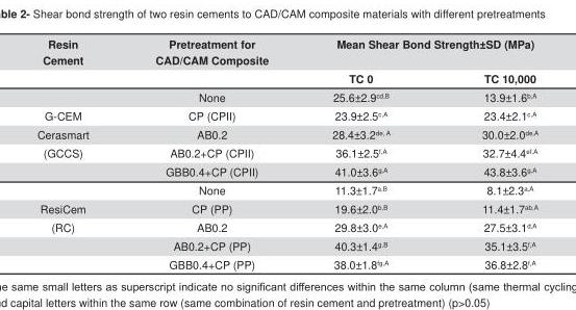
<table><thead><tr><td rowspan="2">Resin Cement</td><td rowspan="2">Pretreatment for CAD/CAM Composite</td><td colspan="2">Mean Shear Bond Strength±SD (MPa)</td></tr><tr><td>TC 0</td><td>TC 10,000</td></tr></thead><tbody><tr><td></td><td>None</td><td>25.6±2.9<sup>cd,B</sup></td><td>13.9±1.6<sup>b,A</sup></td></tr><tr><td>G-CEM</td><td>CP (CPII)</td><td>23.9±2.5<sup>c,A</sup></td><td>23.4±2.1<sup>c,A</sup></td></tr><tr><td>Cerasmart</td><td>AB0.2</td><td>28.4±3.2<sup>de, A</sup></td><td>30.0±2.0<sup>de,A</sup></td></tr><tr><td rowspan="3">(GCCS)</td><td>AB0.2+CP (CPII)</td><td>36.1±2.5<sup>f,A</sup></td><td>32.7±4.4<sup>ef,A</sup></td></tr><tr><td>GBB0.4+CP (CPII)</td><td>41.0±3.6<sup>g,A</sup></td><td>43.8±3.6<sup>g,A</sup></td></tr><tr><td>None</td><td>11.3±1.7<sup>a,B</sup></td><td>8.1±2.3<sup>a,A</sup></td></tr><tr><td>ResiCem</td><td>CP (PP)</td><td>19.6±2.0<sup>b,B</sup></td><td>11.4±1.7<sup>ab,A</sup></td></tr><tr><td rowspan="3">(RC)</td><td>AB0.2</td><td>29.8±3.0<sup>e,A</sup></td><td>27.5±3.1<sup>d,A</sup></td></tr><tr><td>AB0.2+CP (PP)</td><td>40.3±1.4<sup>g,B</sup></td><td>35.1±3.5<sup>f,A</sup></td></tr><tr><td>GBB0.4+CP (PP)</td><td>38.0±1.8<sup>fg,A</sup></td><td>36.8±2.8<sup>f,A</sup></td></tr></tbody></table>